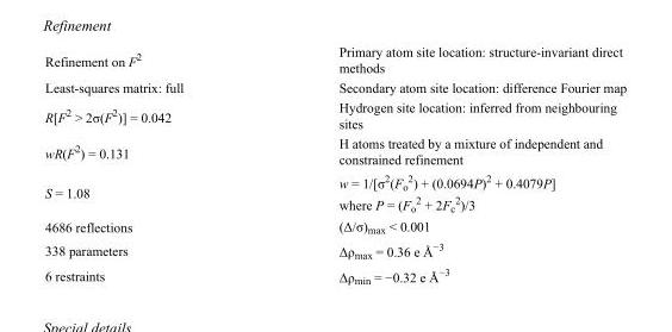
<table><tbody><tr><td>Refinement on F<sup>2</sup></td><td>Primary atom site location: structure-invariant direct methods</td></tr><tr><td>Least-squares matrix: full</td><td>Secondary atom site location: difference Fourier map</td></tr><tr><td>R[F<sup>2</sup> &gt; 2σ(F<sup>2</sup>)] = 0.042</td><td>Hydrogen site location: inferred from neighbouring sites</td></tr><tr><td>wR(F<sup>2</sup>) = 0.131</td><td>H atoms treated by a mixture of independent and constrained refinement</td></tr><tr><td>S = 1.08</td><td>w = 1/[σ<sup>2</sup>(F<sub>o</sub> <sup>2</sup>) + (0.0694P)<sup>2</sup> + 0.4079P] where P = (F<sub>o</sub> <sup>2</sup> + 2F<sub>c</sub> <sup>2</sup>)/3</td></tr><tr><td>4686 reflections</td><td>(Δ/σ)<sub>max</sub> &lt; 0.001</td></tr><tr><td>338 parameters</td><td>Δρ<sub>max</sub> = 0.36 e Å<sup>−3</sup></td></tr><tr><td>6 restraints</td><td>Δρ<sub>min</sub> = −0.32 e Å<sup>−3</sup></td></tr></tbody></table>